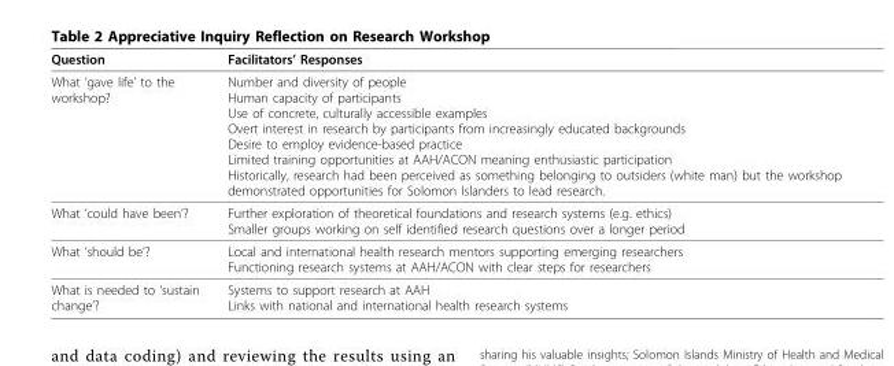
<table><thead><tr><td>Question</td><td>Facilitators’ Responses</td></tr></thead><tbody><tr><td>What ‘gave life’ to the workshop?</td><td>Number and diversity of people Human capacity of participants Use of concrete, culturally accessible examples Overt interest in research by participants from increasingly educated backgrounds Desire to employ evidence-based practice Limited training opportunities at AAH/ACON meaning enthusiastic participation Historically, research had been perceived as something belonging to outsiders (white man) but the workshop demonstrated opportunities for Solomon Islanders to lead research.</td></tr><tr><td>What ‘could have been’?</td><td>Further exploration of theoretical foundations and research systems (e.g. ethics) Smaller groups working on self identified research questions over a longer period</td></tr><tr><td>What ‘should be’?</td><td>Local and international health research mentors supporting emerging researchers Functioning research systems at AAH/ACON with clear steps for researchers</td></tr><tr><td>What is needed to ‘sustain change’?</td><td>Systems to support research at AAH Links with national and international health research systems</td></tr></tbody></table>